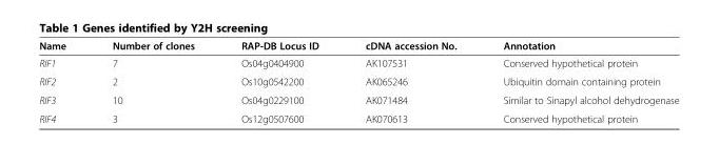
<table><thead><tr><td>Name</td><td>Number of clones</td><td>RAP-DB Locus ID</td><td>cDNA accession No.</td><td>Annotation</td></tr></thead><tbody><tr><td>RIF1</td><td>7</td><td>Os04g0404900</td><td>AK107531</td><td>Conserved hypothetical protein</td></tr><tr><td>RIF2</td><td>2</td><td>Os10g0542200</td><td>AK065246</td><td>Ubiquitin domain containing protein</td></tr><tr><td>RIF3</td><td>10</td><td>Os04g0229100</td><td>AK071484</td><td>Similar to Sinapyl alcohol dehydrogenase</td></tr><tr><td>RIF4</td><td>3</td><td>Os12g0507600</td><td>AK070613</td><td>Conserved hypothetical protein</td></tr></tbody></table>